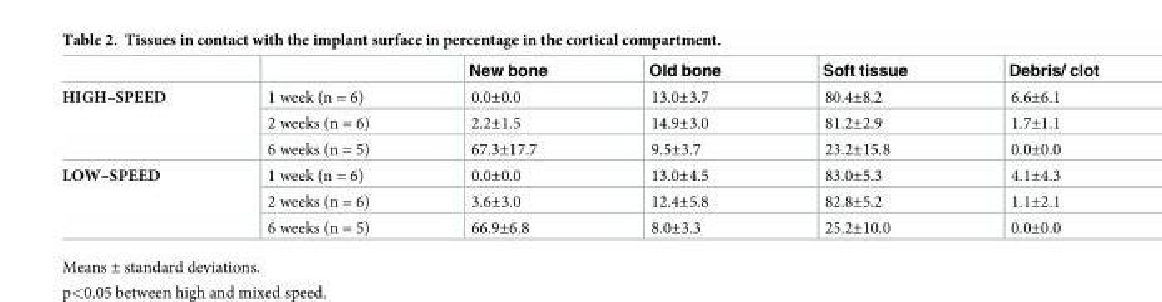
<table><thead><tr><td></td><td></td><td>New bone</td><td>Old bone</td><td>Soft tissue</td><td>Debris/ clot</td></tr></thead><tbody><tr><td rowspan="3">HIGH–SPEED</td><td>1 week (n = 6)</td><td>0.0±0.0</td><td>13.0±3.7</td><td>80.4±8.2</td><td>6.6±6.1</td></tr><tr><td>2 weeks (n = 6)</td><td>2.2±1.5</td><td>14.9±3.0</td><td>81.2±2.9</td><td>1.7±1.1</td></tr><tr><td>6 weeks (n = 5)</td><td>67.3±17.7</td><td>9.5±3.7</td><td>23.2±15.8</td><td>0.0±0.0</td></tr><tr><td rowspan="3">LOW–SPEED</td><td>1 week (n = 6)</td><td>0.0±0.0</td><td>13.0±4.5</td><td>83.0±5.3</td><td>4.1±4.3</td></tr><tr><td>2 weeks (n = 6)</td><td>3.6±3.0</td><td>12.4±5.8</td><td>82.8±5.2</td><td>1.1±2.1</td></tr><tr><td>6 weeks (n = 5)</td><td>66.9±6.8</td><td>8.0±3.3</td><td>25.2±10.0</td><td>0.0±0.0</td></tr></tbody></table>